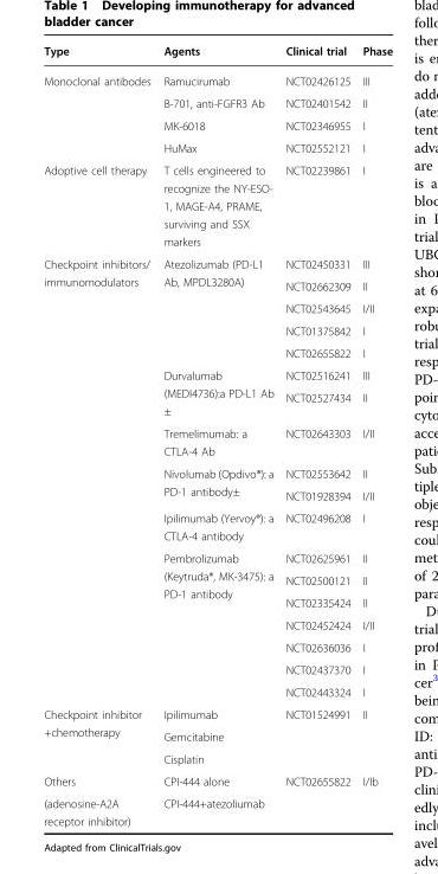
<table><thead><tr><td>Type</td><td>Agents</td><td>Clinical trial</td><td>Phase</td></tr></thead><tbody><tr><td rowspan="4">Monoclonal antibodes</td><td>Ramucirumab</td><td>NCT02426125</td><td>III</td></tr><tr><td>B-701, anti-FGFR3 Ab</td><td>NCT02401542</td><td>II</td></tr><tr><td>MK-6018</td><td>NCT02346955</td><td>I</td></tr><tr><td>HuMax</td><td>NCT02552121</td><td>I</td></tr><tr><td>Adoptive cell therapy</td><td>T cells engineered to recognize the NY-ESO- 1, MAGE-A4, PRAME, surviving and SSX markers</td><td>NCT02239861</td><td>I</td></tr><tr><td rowspan="18">Checkpoint inhibitors/ immunomodulators</td><td rowspan="5">Atezolizumab (PD-L1 Ab, MPDL3280A)</td><td>NCT02450331</td><td>III</td></tr><tr><td>NCT02662309</td><td>II</td></tr><tr><td>NCT02543645</td><td>I/II</td></tr><tr><td>NCT01375842</td><td>I</td></tr><tr><td>NCT02655822</td><td>I</td></tr><tr><td rowspan="2">Durvalumab (MEDI4736):a PD-L1 Ab ±</td><td>NCT02516241</td><td>III</td></tr><tr><td>NCT02527434</td><td>II</td></tr><tr><td>Tremelimumab: a CTLA-4 Ab</td><td>NCT02643303</td><td>I/II</td></tr><tr><td rowspan="2">Nivolumab (Opdivo®): a PD-1 antibody±</td><td>NCT02553642</td><td>II</td></tr><tr><td>NCT01928394</td><td>I/II</td></tr><tr><td>Ipilimumab (Yervoy®): a CTLA-4 antibody</td><td>NCT02496208</td><td>I</td></tr><tr><td rowspan="7">Pembrolizumab (Keytruda®, MK-3475): a PD-1 antibody</td><td>NCT02625961</td><td>II</td></tr><tr><td>NCT02500121</td><td>II</td></tr><tr><td>NCT02335424</td><td>II</td></tr><tr><td>NCT02452424</td><td>I/II</td></tr><tr><td>NCT02636036</td><td>I</td></tr><tr><td>NCT02437370</td><td>I</td></tr><tr><td>NCT02443324</td><td>I</td></tr><tr><td rowspan="3">Checkpoint inhibitor +chemotherapy</td><td>Ipilimumab</td><td>NCT01524991</td><td>II</td></tr><tr><td>Gemcitabine</td><td></td><td></td></tr><tr><td>Cisplatin</td><td></td><td></td></tr><tr><td>Others</td><td>CPI-444 alone</td><td>NCT02655822</td><td>I/Ib</td></tr><tr><td>(adenosine-A2A receptor inhibitor)</td><td>CPI-444+atezoliumab</td><td></td><td></td></tr></tbody></table>